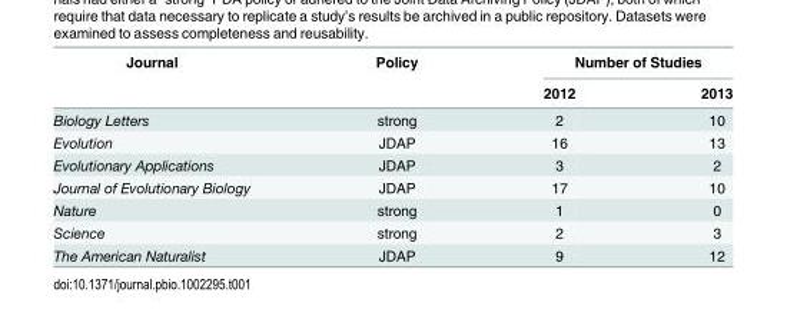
<table><thead><tr><td rowspan="2">Journal</td><td rowspan="2">Policy</td><td colspan="2">Number of Studies</td></tr><tr><td>2012</td><td>2013</td></tr></thead><tbody><tr><td>Biology Letters</td><td>strong</td><td>2</td><td>10</td></tr><tr><td>Evolution</td><td>JDAP</td><td>16</td><td>13</td></tr><tr><td>Evolutionary Applications</td><td>JDAP</td><td>3</td><td>2</td></tr><tr><td>Journal of Evolutionary Biology</td><td>JDAP</td><td>17</td><td>10</td></tr><tr><td>Nature</td><td>strong</td><td>1</td><td>0</td></tr><tr><td>Science</td><td>strong</td><td>2</td><td>3</td></tr><tr><td>The American Naturalist</td><td>JDAP</td><td>9</td><td>12</td></tr></tbody></table>